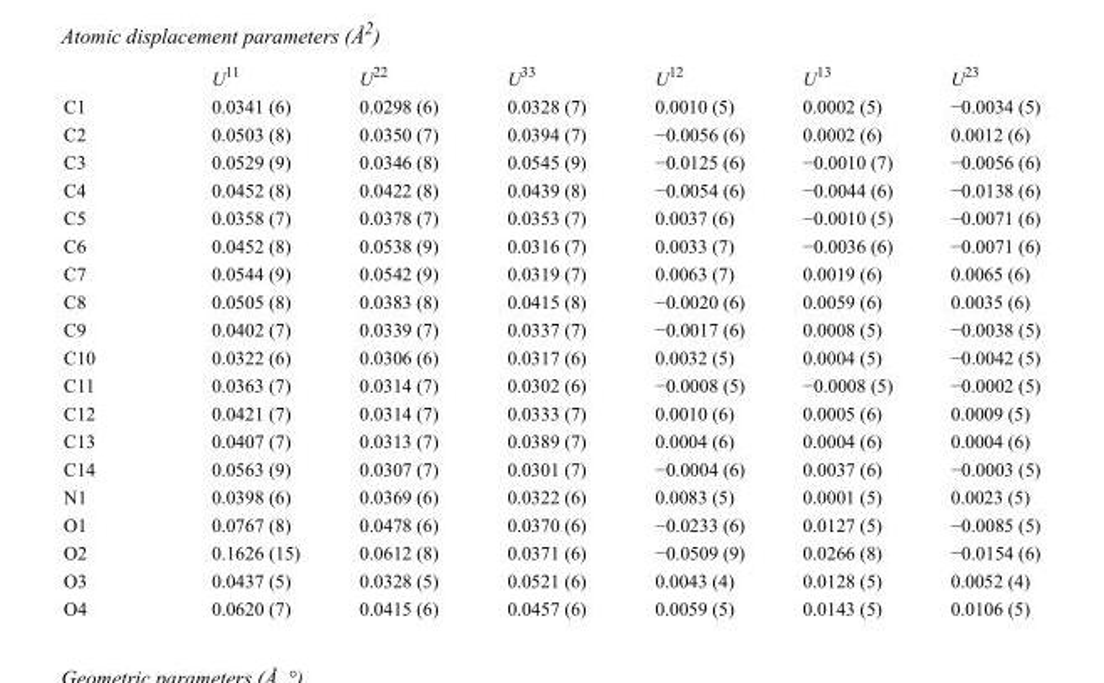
<table><thead><tr><td></td><td>U<sup>11</sup></td><td>U<sup>22</sup></td><td>U<sup>33</sup></td><td>U<sup>12</sup></td><td>U<sup>13</sup></td><td>U<sup>23</sup></td></tr></thead><tbody><tr><td>C1</td><td>0.0341 (6)</td><td>0.0298 (6)</td><td>0.0328 (7)</td><td>0.0010 (5)</td><td>0.0002 (5)</td><td>−0.0034 (5)</td></tr><tr><td>C2</td><td>0.0503 (8)</td><td>0.0350 (7)</td><td>0.0394 (7)</td><td>−0.0056 (6)</td><td>0.0002 (6)</td><td>0.0012 (6)</td></tr><tr><td>C3</td><td>0.0529 (9)</td><td>0.0346 (8)</td><td>0.0545 (9)</td><td>−0.0125 (6)</td><td>−0.0010 (7)</td><td>−0.0056 (6)</td></tr><tr><td>C4</td><td>0.0452 (8)</td><td>0.0422 (8)</td><td>0.0439 (8)</td><td>−0.0054 (6)</td><td>−0.0044 (6)</td><td>−0.0138 (6)</td></tr><tr><td>C5</td><td>0.0358 (7)</td><td>0.0378 (7)</td><td>0.0353 (7)</td><td>0.0037 (6)</td><td>−0.0010 (5)</td><td>−0.0071 (6)</td></tr><tr><td>C6</td><td>0.0452 (8)</td><td>0.0538 (9)</td><td>0.0316 (7)</td><td>0.0033 (7)</td><td>−0.0036 (6)</td><td>−0.0071 (6)</td></tr><tr><td>C7</td><td>0.0544 (9)</td><td>0.0542 (9)</td><td>0.0319 (7)</td><td>0.0063 (7)</td><td>0.0019 (6)</td><td>0.0065 (6)</td></tr><tr><td>C8</td><td>0.0505 (8)</td><td>0.0383 (8)</td><td>0.0415 (8)</td><td>−0.0020 (6)</td><td>0.0059 (6)</td><td>0.0035 (6)</td></tr><tr><td>C9</td><td>0.0402 (7)</td><td>0.0339 (7)</td><td>0.0337 (7)</td><td>−0.0017 (6)</td><td>0.0008 (5)</td><td>−0.0038 (5)</td></tr><tr><td>C10</td><td>0.0322 (6)</td><td>0.0306 (6)</td><td>0.0317 (6)</td><td>0.0032 (5)</td><td>0.0004 (5)</td><td>−0.0042 (5)</td></tr><tr><td>C11</td><td>0.0363 (7)</td><td>0.0314 (7)</td><td>0.0302 (6)</td><td>−0.0008 (5)</td><td>−0.0008 (5)</td><td>−0.0002 (5)</td></tr><tr><td>C12</td><td>0.0421 (7)</td><td>0.0314 (7)</td><td>0.0333 (7)</td><td>0.0010 (6)</td><td>0.0005 (6)</td><td>0.0009 (5)</td></tr><tr><td>C13</td><td>0.0407 (7)</td><td>0.0313 (7)</td><td>0.0389 (7)</td><td>0.0004 (6)</td><td>0.0004 (6)</td><td>0.0004 (6)</td></tr><tr><td>C14</td><td>0.0563 (9)</td><td>0.0307 (7)</td><td>0.0301 (7)</td><td>−0.0004 (6)</td><td>0.0037 (6)</td><td>−0.0003 (5)</td></tr><tr><td>N1</td><td>0.0398 (6)</td><td>0.0369 (6)</td><td>0.0322 (6)</td><td>0.0083 (5)</td><td>0.0001 (5)</td><td>0.0023 (5)</td></tr><tr><td>O1</td><td>0.0767 (8)</td><td>0.0478 (6)</td><td>0.0370 (6)</td><td>−0.0233 (6)</td><td>0.0127 (5)</td><td>−0.0085 (5)</td></tr><tr><td>O2</td><td>0.1626 (15)</td><td>0.0612 (8)</td><td>0.0371 (6)</td><td>−0.0509 (9)</td><td>0.0266 (8)</td><td>−0.0154 (6)</td></tr><tr><td>O3</td><td>0.0437 (5)</td><td>0.0328 (5)</td><td>0.0521 (6)</td><td>0.0043 (4)</td><td>0.0128 (5)</td><td>0.0052 (4)</td></tr><tr><td>O4</td><td>0.0620 (7)</td><td>0.0415 (6)</td><td>0.0457 (6)</td><td>0.0059 (5)</td><td>0.0143 (5)</td><td>0.0106 (5)</td></tr></tbody></table>